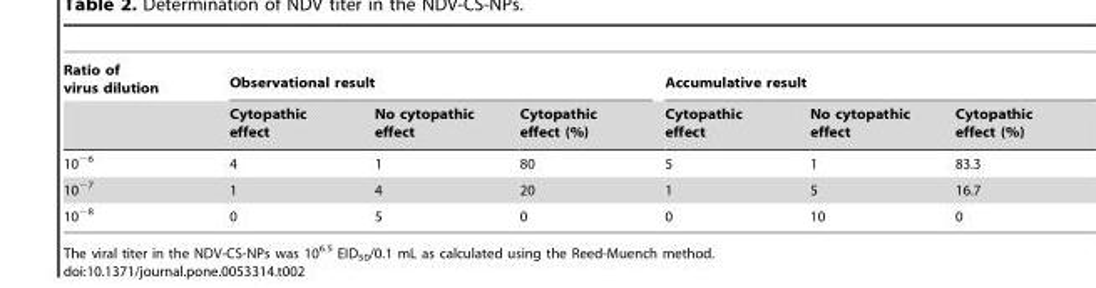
<table><thead><tr><td rowspan="2">Ratio of virus dilution</td><td colspan="3">Observational result</td><td colspan="3">Accumulative result</td></tr><tr><td>Cytopathic effect</td><td>No cytopathic effect</td><td>Cytopathic effect (%)</td><td>Cytopathic effect</td><td>No cytopathic effect</td><td>Cytopathic effect (%)</td></tr></thead><tbody><tr><td>10<sup>−6</sup></td><td>4</td><td>1</td><td>80</td><td>5</td><td>1</td><td>83.3</td></tr><tr><td>10<sup>−7</sup></td><td>1</td><td>4</td><td>20</td><td>1</td><td>5</td><td>16.7</td></tr><tr><td>10<sup>−8</sup></td><td>0</td><td>5</td><td>0</td><td>0</td><td>10</td><td>0</td></tr></tbody></table>